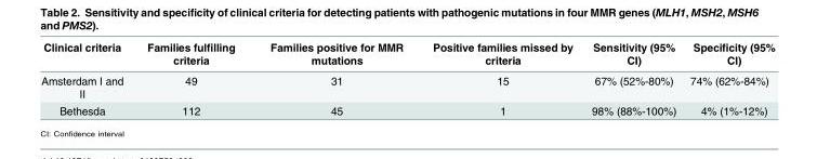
<table><thead><tr><td>Clinical criteria</td><td>Families fulfilling criteria</td><td>Families positive for MMR mutations</td><td>Positive families missed by criteria</td><td>Sensitivity (95% CI)</td><td>Specificity (95% CI)</td></tr></thead><tbody><tr><td>Amsterdam I and II</td><td>49</td><td>31</td><td>15</td><td>67% (52%-80%)</td><td>74% (62%-84%)</td></tr><tr><td>Bethesda</td><td>112</td><td>45</td><td>1</td><td>98% (88%-100%)</td><td>4% (1%-12%)</td></tr></tbody></table>